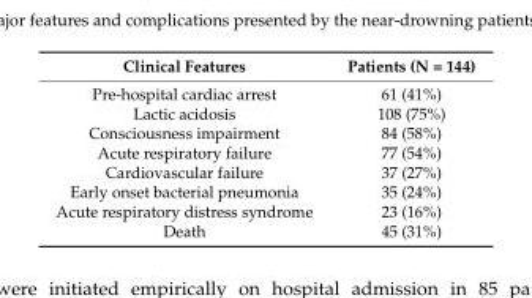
<table><thead><tr><td>Clinical Features</td><td>Patients (N = 144)</td></tr></thead><tbody><tr><td>Pre-hospital cardiac arrest</td><td>61 (41%)</td></tr><tr><td>Lactic acidosis</td><td>108 (75%)</td></tr><tr><td>Consciousness impairment</td><td>84 (58%)</td></tr><tr><td>Acute respiratory failure</td><td>77 (54%)</td></tr><tr><td>Cardiovascular failure</td><td>37 (27%)</td></tr><tr><td>Early onset bacterial pneumonia</td><td>35 (24%)</td></tr><tr><td>Acute respiratory distress syndrome</td><td>23 (16%)</td></tr><tr><td>Death</td><td>45 (31%)</td></tr></tbody></table>